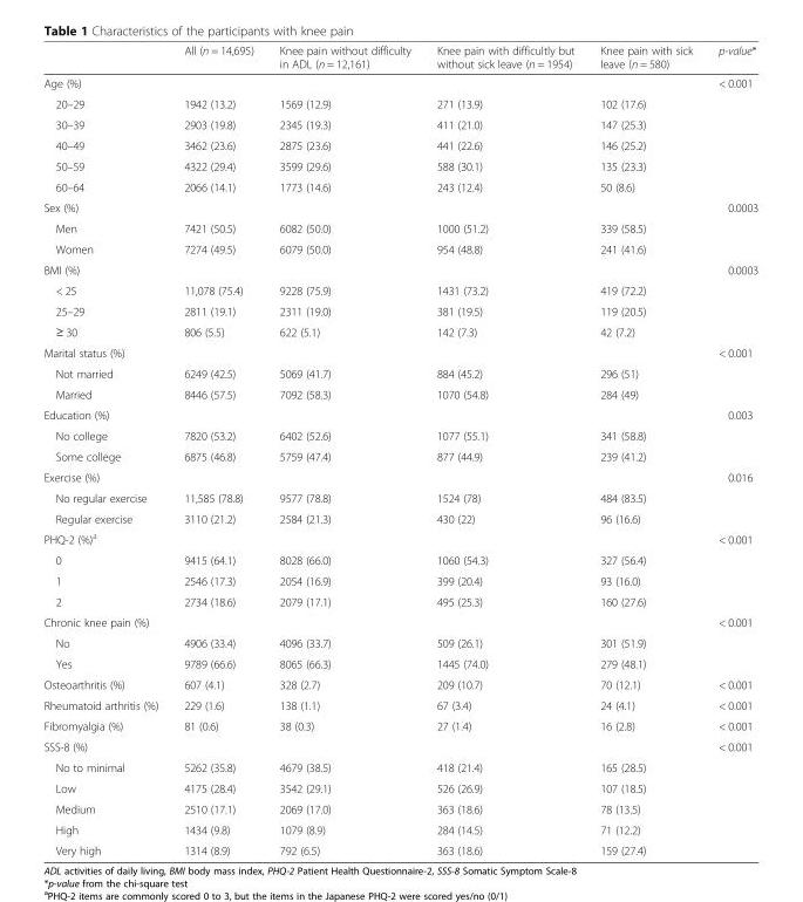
<table><thead><tr><td></td><td>All (n = 14,695)</td><td>Knee pain without difficulty in ADL (n = 12,161)</td><td>Knee pain with difficultly but without sick leave (n = 1954)</td><td>Knee pain with sick leave (n = 580)</td><td>p-value*</td></tr></thead><tbody><tr><td>Age (%)</td><td></td><td></td><td></td><td></td><td>&lt; 0.001</td></tr><tr><td>20–29</td><td>1942 (13.2)</td><td>1569 (12.9)</td><td>271 (13.9)</td><td>102 (17.6)</td><td></td></tr><tr><td>30–39</td><td>2903 (19.8)</td><td>2345 (19.3)</td><td>411 (21.0)</td><td>147 (25.3)</td><td></td></tr><tr><td>40–49</td><td>3462 (23.6)</td><td>2875 (23.6)</td><td>441 (22.6)</td><td>146 (25.2)</td><td></td></tr><tr><td>50–59</td><td>4322 (29.4)</td><td>3599 (29.6)</td><td>588 (30.1)</td><td>135 (23.3)</td><td></td></tr><tr><td>60–64</td><td>2066 (14.1)</td><td>1773 (14.6)</td><td>243 (12.4)</td><td>50 (8.6)</td><td></td></tr><tr><td>Sex (%)</td><td></td><td></td><td></td><td></td><td>0.0003</td></tr><tr><td>Men</td><td>7421 (50.5)</td><td>6082 (50.0)</td><td>1000 (51.2)</td><td>339 (58.5)</td><td></td></tr><tr><td>Women</td><td>7274 (49.5)</td><td>6079 (50.0)</td><td>954 (48.8)</td><td>241 (41.6)</td><td></td></tr><tr><td>BMI (%)</td><td></td><td></td><td></td><td></td><td>0.0003</td></tr><tr><td>&lt; 25</td><td>11,078 (75.4)</td><td>9228 (75.9)</td><td>1431 (73.2)</td><td>419 (72.2)</td><td></td></tr><tr><td>25–29</td><td>2811 (19.1)</td><td>2311 (19.0)</td><td>381 (19.5)</td><td>119 (20.5)</td><td></td></tr><tr><td>≥ 30</td><td>806 (5.5)</td><td>622 (5.1)</td><td>142 (7.3)</td><td>42 (7.2)</td><td></td></tr><tr><td>Marital status (%)</td><td></td><td></td><td></td><td></td><td>&lt; 0.001</td></tr><tr><td>Not married</td><td>6249 (42.5)</td><td>5069 (41.7)</td><td>884 (45.2)</td><td>296 (51)</td><td></td></tr><tr><td>Married</td><td>8446 (57.5)</td><td>7092 (58.3)</td><td>1070 (54.8)</td><td>284 (49)</td><td></td></tr><tr><td>Education (%)</td><td></td><td></td><td></td><td></td><td>0.003</td></tr><tr><td>No college</td><td>7820 (53.2)</td><td>6402 (52.6)</td><td>1077 (55.1)</td><td>341 (58.8)</td><td></td></tr><tr><td>Some college</td><td>6875 (46.8)</td><td>5759 (47.4)</td><td>877 (44.9)</td><td>239 (41.2)</td><td></td></tr><tr><td>Exercise (%)</td><td></td><td></td><td></td><td></td><td>0.016</td></tr><tr><td>No regular exercise</td><td>11,585 (78.8)</td><td>9577 (78.8)</td><td>1524 (78)</td><td>484 (83.5)</td><td></td></tr><tr><td>Regular exercise</td><td>3110 (21.2)</td><td>2584 (21.3)</td><td>430 (22)</td><td>96 (16.6)</td><td></td></tr><tr><td>PHQ-2 (%)<sup>a</sup></td><td></td><td></td><td></td><td></td><td>&lt; 0.001</td></tr><tr><td>0</td><td>9415 (64.1)</td><td>8028 (66.0)</td><td>1060 (54.3)</td><td>327 (56.4)</td><td></td></tr><tr><td>1</td><td>2546 (17.3)</td><td>2054 (16.9)</td><td>399 (20.4)</td><td>93 (16.0)</td><td></td></tr><tr><td>2</td><td>2734 (18.6)</td><td>2079 (17.1)</td><td>495 (25.3)</td><td>160 (27.6)</td><td></td></tr><tr><td>Chronic knee pain (%)</td><td></td><td></td><td></td><td></td><td>&lt; 0.001</td></tr><tr><td>No</td><td>4906 (33.4)</td><td>4096 (33.7)</td><td>509 (26.1)</td><td>301 (51.9)</td><td></td></tr><tr><td>Yes</td><td>9789 (66.6)</td><td>8065 (66.3)</td><td>1445 (74.0)</td><td>279 (48.1)</td><td></td></tr><tr><td>Osteoarthritis (%)</td><td>607 (4.1)</td><td>328 (2.7)</td><td>209 (10.7)</td><td>70 (12.1)</td><td>&lt; 0.001</td></tr><tr><td>Rheumatoid arthritis (%)</td><td>229 (1.6)</td><td>138 (1.1)</td><td>67 (3.4)</td><td>24 (4.1)</td><td>&lt; 0.001</td></tr><tr><td>Fibromyalgia (%)</td><td>81 (0.6)</td><td>38 (0.3)</td><td>27 (1.4)</td><td>16 (2.8)</td><td>&lt; 0.001</td></tr><tr><td>SSS-8 (%)</td><td></td><td></td><td></td><td></td><td>&lt; 0.001</td></tr><tr><td>No to minimal</td><td>5262 (35.8)</td><td>4679 (38.5)</td><td>418 (21.4)</td><td>165 (28.5)</td><td></td></tr><tr><td>Low</td><td>4175 (28.4)</td><td>3542 (29.1)</td><td>526 (26.9)</td><td>107 (18.5)</td><td></td></tr><tr><td>Medium</td><td>2510 (17.1)</td><td>2069 (17.0)</td><td>363 (18.6)</td><td>78 (13.5)</td><td></td></tr><tr><td>High</td><td>1434 (9.8)</td><td>1079 (8.9)</td><td>284 (14.5)</td><td>71 (12.2)</td><td></td></tr><tr><td>Very high</td><td>1314 (8.9)</td><td>792 (6.5)</td><td>363 (18.6)</td><td>159 (27.4)</td><td></td></tr></tbody></table>